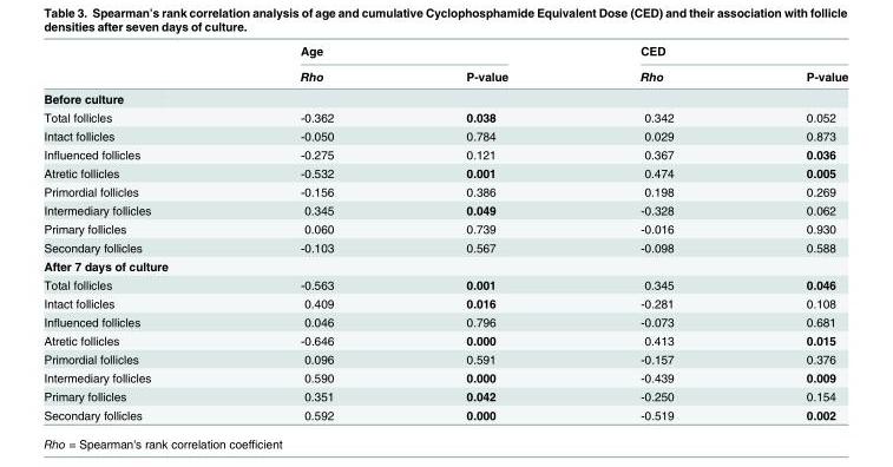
<table><thead><tr><td rowspan="2"></td><td colspan="2">Age</td><td colspan="2">CED</td></tr><tr><td>Rho</td><td>P-value</td><td>Rho</td><td>P-value</td></tr></thead><tbody><tr><td colspan="5">Before culture</td></tr><tr><td>Total follicles</td><td>-0.362</td><td>0.038</td><td>0.342</td><td>0.052</td></tr><tr><td>Intact follicles</td><td>-0.050</td><td>0.784</td><td>0.029</td><td>0.873</td></tr><tr><td>Influenced follicles</td><td>-0.275</td><td>0.121</td><td>0.367</td><td>0.036</td></tr><tr><td>Atretic follicles</td><td>-0.532</td><td>0.001</td><td>0.474</td><td>0.005</td></tr><tr><td>Primordial follicles</td><td>-0.156</td><td>0.386</td><td>0.198</td><td>0.269</td></tr><tr><td>Intermediary follicles</td><td>0.345</td><td>0.049</td><td>-0.328</td><td>0.062</td></tr><tr><td>Primary follicles</td><td>0.060</td><td>0.739</td><td>-0.016</td><td>0.930</td></tr><tr><td>Secondary follicles</td><td>-0.103</td><td>0.567</td><td>-0.098</td><td>0.588</td></tr><tr><td colspan="5">After 7 days of culture</td></tr><tr><td>Total follicles</td><td>-0.563</td><td>0.001</td><td>0.345</td><td>0.046</td></tr><tr><td>Intact follicles</td><td>0.409</td><td>0.016</td><td>-0.281</td><td>0.108</td></tr><tr><td>Influenced follicles</td><td>0.046</td><td>0.796</td><td>-0.073</td><td>0.681</td></tr><tr><td>Atretic follicles</td><td>-0.646</td><td>0.000</td><td>0.413</td><td>0.015</td></tr><tr><td>Primordial follicles</td><td>0.096</td><td>0.591</td><td>-0.157</td><td>0.376</td></tr><tr><td>Intermediary follicles</td><td>0.590</td><td>0.000</td><td>-0.439</td><td>0.009</td></tr><tr><td>Primary follicles</td><td>0.351</td><td>0.042</td><td>-0.250</td><td>0.154</td></tr><tr><td>Secondary follicles</td><td>0.592</td><td>0.000</td><td>-0.519</td><td>0.002</td></tr></tbody></table>